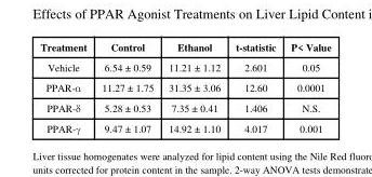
<table><thead><tr><td>Treatment</td><td>Control</td><td>Ethanol</td><td>t-statistic</td><td>P&lt; Value</td></tr></thead><tbody><tr><td>Vehicle</td><td>6.54 ± 0.59</td><td>11.21 ± 1.12</td><td>2.601</td><td>0.05</td></tr><tr><td>PPAR-α</td><td>11.27 ± 1.75</td><td>31.35 ± 3.06</td><td>12.60</td><td>0.0001</td></tr><tr><td>PPAR-δ</td><td>5.28 ± 0.53</td><td>7.35 ± 0.41</td><td>1.406</td><td>N.S.</td></tr><tr><td>PPAR-γ</td><td>9.47 ± 1.07</td><td>14.92 ± 1.10</td><td>4.017</td><td>0.001</td></tr></tbody></table>